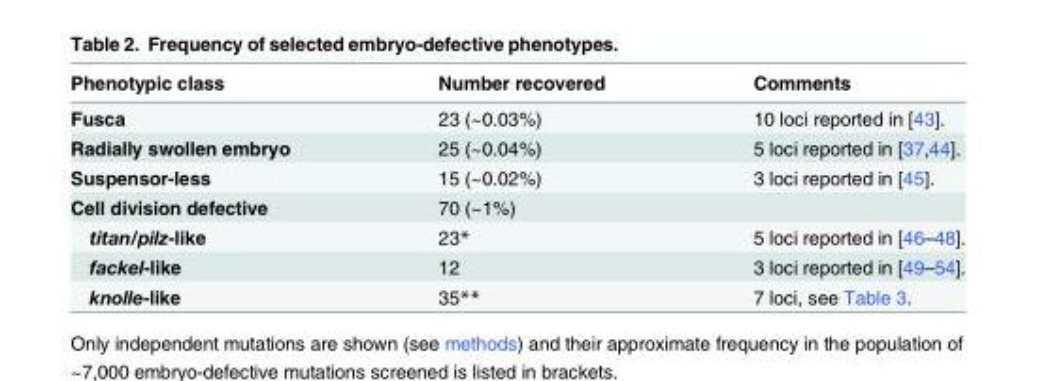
<table><thead><tr><td>Phenotypic class</td><td>Number recovered</td><td>Comments</td></tr></thead><tbody><tr><td>Fusca</td><td>23 (~0.03%)</td><td>10 loci reported in [43].</td></tr><tr><td>Radially swollen embryo</td><td>25 (~0.04%)</td><td>5 loci reported in [37,44].</td></tr><tr><td>Suspensor-less</td><td>15 (~0.02%)</td><td>3 loci reported in [45].</td></tr><tr><td>Cell division defective</td><td>70 (~1%)</td><td></td></tr><tr><td>titan/pilz-like</td><td>23*</td><td>5 loci reported in [46–48].</td></tr><tr><td>fackel-like</td><td>12</td><td>3 loci reported in [49–54].</td></tr><tr><td>knolle-like</td><td>35**</td><td>7 loci, see Table 3.</td></tr></tbody></table>